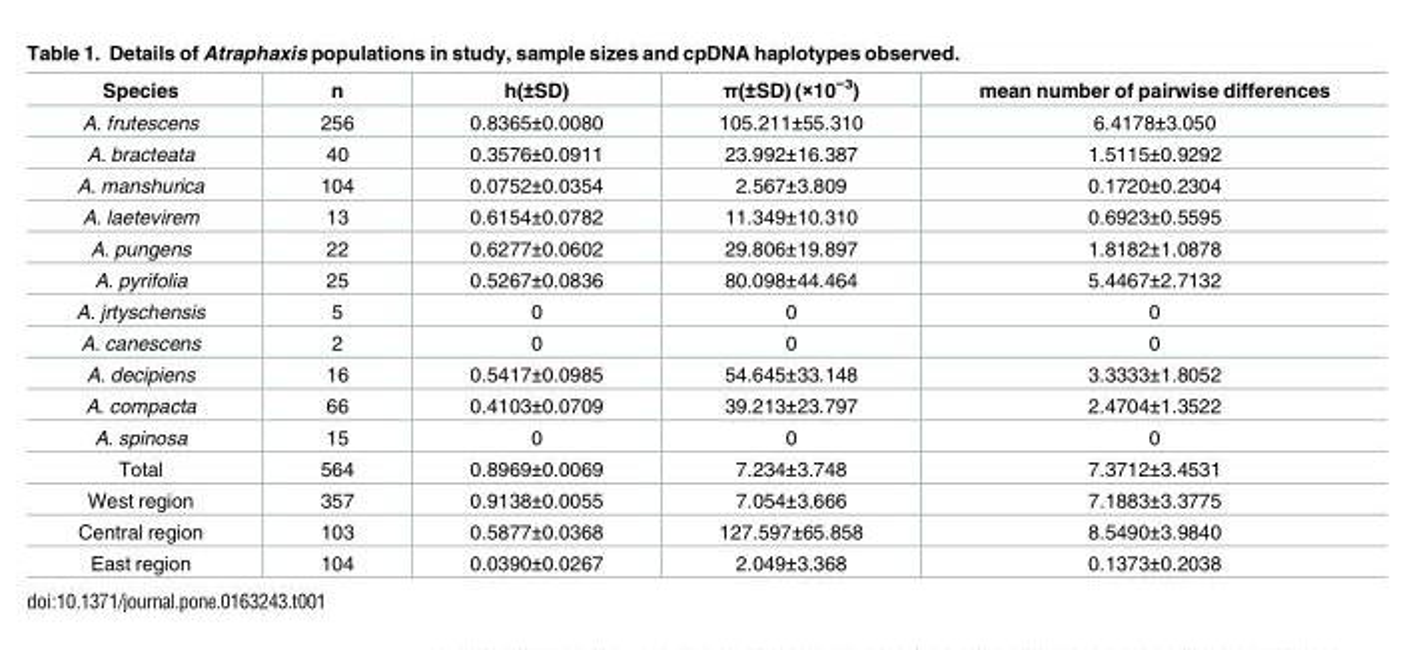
<table><thead><tr><td>Species</td><td>n</td><td>h(±SD)</td><td>π(±SD) (×10<sup>−3</sup>)</td><td>mean number of pairwise differences</td></tr></thead><tbody><tr><td>A. frutescens</td><td>256</td><td>0.8365±0.0080</td><td>105.211±55.310</td><td>6.4178±3.050</td></tr><tr><td>A. bracteata</td><td>40</td><td>0.3576±0.0911</td><td>23.992±16.387</td><td>1.5115±0.9292</td></tr><tr><td>A. manshurica</td><td>104</td><td>0.0752±0.0354</td><td>2.567±3.809</td><td>0.1720±0.2304</td></tr><tr><td>A. laetevirem</td><td>13</td><td>0.6154±0.0782</td><td>11.349±10.310</td><td>0.6923±0.5595</td></tr><tr><td>A. pungens</td><td>22</td><td>0.6277±0.0602</td><td>29.806±19.897</td><td>1.8182±1.0878</td></tr><tr><td>A. pyrifolia</td><td>25</td><td>0.5267±0.0836</td><td>80.098±44.464</td><td>5.4467±2.7132</td></tr><tr><td>A. jrtyschensis</td><td>5</td><td>0</td><td>0</td><td>0</td></tr><tr><td>A. canescens</td><td>2</td><td>0</td><td>0</td><td>0</td></tr><tr><td>A. decipiens</td><td>16</td><td>0.5417±0.0985</td><td>54.645±33.148</td><td>3.3333±1.8052</td></tr><tr><td>A. compacta</td><td>66</td><td>0.4103±0.0709</td><td>39.213±23.797</td><td>2.4704±1.3522</td></tr><tr><td>A. spinosa</td><td>15</td><td>0</td><td>0</td><td>0</td></tr><tr><td>Total</td><td>564</td><td>0.8969±0.0069</td><td>7.234±3.748</td><td>7.3712±3.4531</td></tr><tr><td>West region</td><td>357</td><td>0.9138±0.0055</td><td>7.054±3.666</td><td>7.1883±3.3775</td></tr><tr><td>Central region</td><td>103</td><td>0.5877±0.0368</td><td>127.597±65.858</td><td>8.5490±3.9840</td></tr><tr><td>East region</td><td>104</td><td>0.0390±0.0267</td><td>2.049±3.368</td><td>0.1373±0.2038</td></tr></tbody></table>